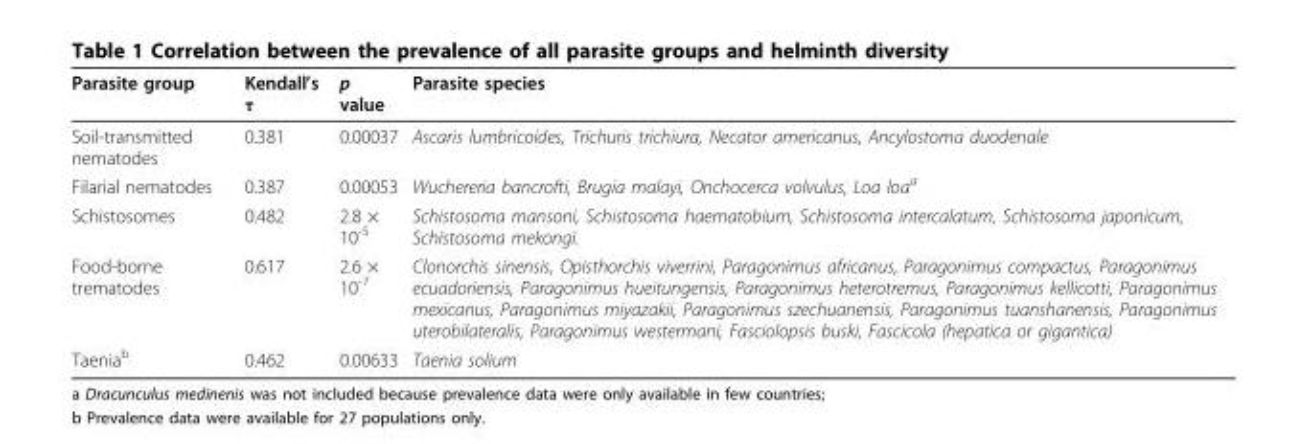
<table><thead><tr><td>Parasite group</td><td>Kendall’s τ</td><td>p value</td><td>Parasite species</td></tr></thead><tbody><tr><td>Soil-transmitted nematodes</td><td>0.381</td><td>0.00037</td><td>Ascaris lumbricoides, Trichuris trichiura, Necator americanus, Ancylostoma duodenale</td></tr><tr><td>Filarial nematodes</td><td>0.387</td><td>0.00053</td><td>Wuchereria bancrofti, Brugia malayi, Onchocerca volvulus, Loa loa<sup>a</sup></td></tr><tr><td>Schistosomes</td><td>0.482</td><td>2.8 × 10<sup>-5</sup></td><td>Schistosoma mansoni, Schistosoma haematobium, Schistosoma intercalatum, Schistosoma japonicum, Schistosoma mekongi.</td></tr><tr><td>Food-borne trematodes</td><td>0.617</td><td>2.6 × 10<sup>-7</sup></td><td>Clonorchis sinensis, Opisthorchis viverrini, Paragonimus africanus, Paragonimus compactus, Paragonimus ecuadoriensis, Paragonimus hueitungensis, Paragonimus heterotremus, Paragonimus kellicotti, Paragonimus mexicanus, Paragonimus miyazakii, Paragonimus szechuanensis, Paragonimus tuanshanensis, Paragonimus uterobilateralis, Paragonimus westermani, Fasciolopsis buski, Fascicola (hepatica or gigantica)</td></tr><tr><td>Taenia<sup>b</sup></td><td>0.462</td><td>0.00633</td><td>Taenia solium</td></tr></tbody></table>